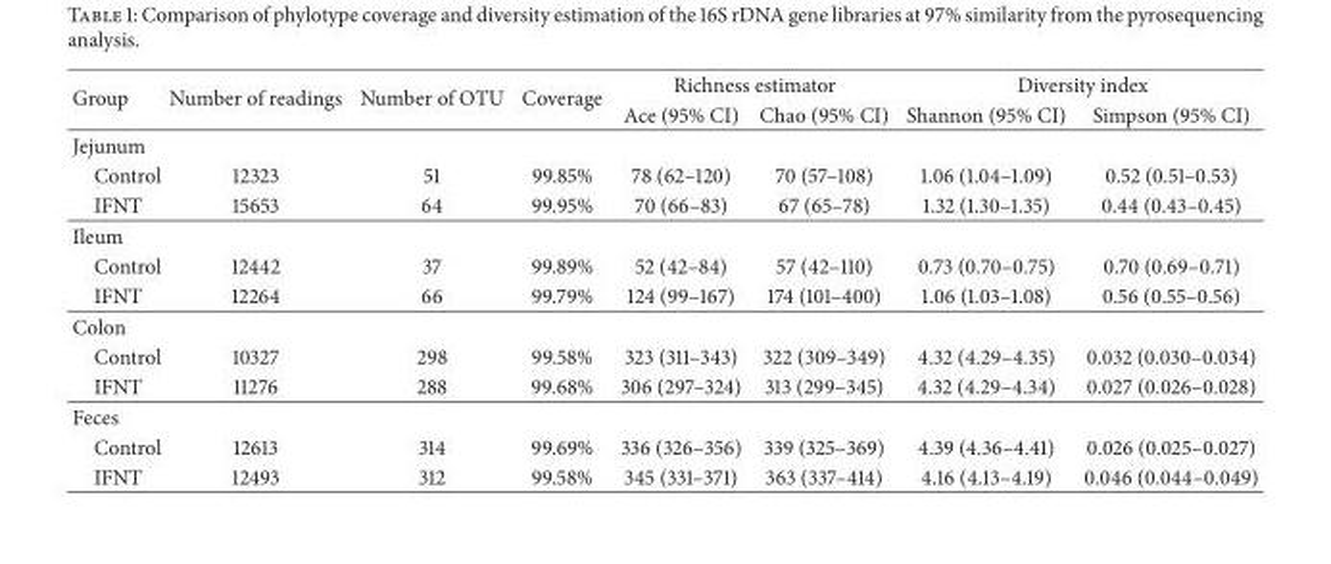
<table><thead><tr><td rowspan="2">Group</td><td rowspan="2">Number of readings</td><td rowspan="2">Number of OTU</td><td rowspan="2">Coverage</td><td colspan="2">Richness estimator</td><td colspan="2">Diversity index</td></tr><tr><td>Ace (95% CI)</td><td>Chao (95% CI)</td><td>Shannon (95% CI)</td><td>Simpson (95% CI)</td></tr></thead><tbody><tr><td colspan="8">Jejunum</td></tr><tr><td>Control</td><td>12323</td><td>51</td><td>99.85%</td><td>78 (62–120)</td><td>70 (57–108)</td><td>1.06 (1.04–1.09)</td><td>0.52 (0.51–0.53)</td></tr><tr><td>IFNT</td><td>15653</td><td>64</td><td>99.95%</td><td>70 (66–83)</td><td>67 (65–78)</td><td>1.32 (1.30–1.35)</td><td>0.44 (0.43–0.45)</td></tr><tr><td colspan="8">Ileum</td></tr><tr><td>Control</td><td>12442</td><td>37</td><td>99.89%</td><td>52 (42–84)</td><td>57 (42–110)</td><td>0.73 (0.70–0.75)</td><td>0.70 (0.69–0.71)</td></tr><tr><td>IFNT</td><td>12264</td><td>66</td><td>99.79%</td><td>124 (99–167)</td><td>174 (101–400)</td><td>1.06 (1.03–1.08)</td><td>0.56 (0.55–0.56)</td></tr><tr><td colspan="8">Colon</td></tr><tr><td>Control</td><td>10327</td><td>298</td><td>99.58%</td><td>323 (311–343)</td><td>322 (309–349)</td><td>4.32 (4.29–4.35)</td><td>0.032 (0.030–0.034)</td></tr><tr><td>IFNT</td><td>11276</td><td>288</td><td>99.68%</td><td>306 (297–324)</td><td>313 (299–345)</td><td>4.32 (4.29–4.34)</td><td>0.027 (0.026–0.028)</td></tr><tr><td colspan="8">Feces</td></tr><tr><td>Control</td><td>12613</td><td>314</td><td>99.69%</td><td>336 (326–356)</td><td>339 (325–369)</td><td>4.39 (4.36–4.41)</td><td>0.026 (0.025–0.027)</td></tr><tr><td>IFNT</td><td>12493</td><td>312</td><td>99.58%</td><td>345 (331–371)</td><td>363 (337–414)</td><td>4.16 (4.13–4.19)</td><td>0.046 (0.044–0.049)</td></tr></tbody></table>